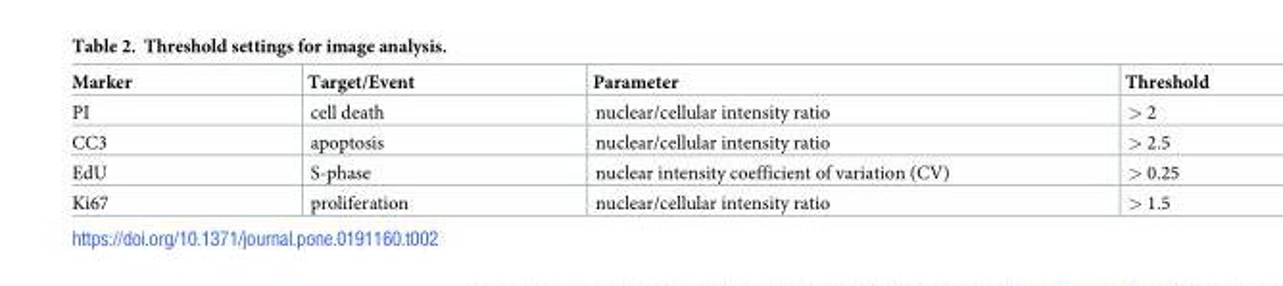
<table><thead><tr><td>Marker</td><td>Target/Event</td><td>Parameter</td><td>Threshold</td></tr></thead><tbody><tr><td>PI</td><td>cell death</td><td>nuclear/cellular intensity ratio</td><td>&gt; 2</td></tr><tr><td>CC3</td><td>apoptosis</td><td>nuclear/cellular intensity ratio</td><td>&gt; 2.5</td></tr><tr><td>EdU</td><td>S-phase</td><td>nuclear intensity coefficient of variation (CV)</td><td>&gt; 0.25</td></tr><tr><td>Ki67</td><td>proliferation</td><td>nuclear/cellular intensity ratio</td><td>&gt; 1.5</td></tr></tbody></table>